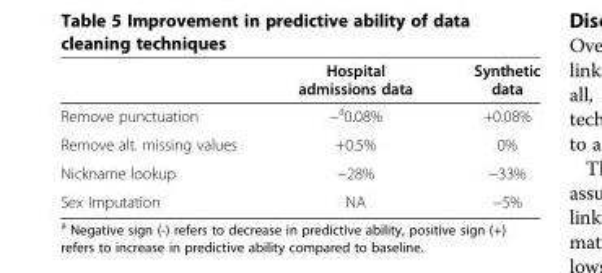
<table><thead><tr><td></td><td>Hospital admissions data</td><td>Synthetic data</td></tr></thead><tbody><tr><td>Remove punctuation</td><td>−<sup>a</sup>0.08%</td><td>+0.08%</td></tr><tr><td>Remove alt. missing values</td><td>+0.5%</td><td>0%</td></tr><tr><td>Nickname lookup</td><td>−28%</td><td>−33%</td></tr><tr><td>Sex Imputation</td><td>NA</td><td>−5%</td></tr></tbody></table>